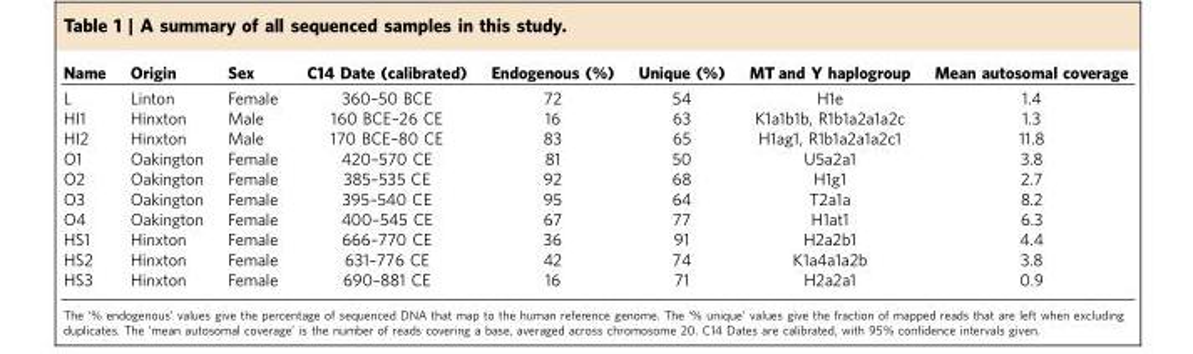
<table><thead><tr><td>Name</td><td>Origin</td><td>Sex</td><td>C14 Date (calibrated)</td><td>Endogenous (%)</td><td>Unique (%)</td><td>MT and Y haplogroup</td><td>Mean autosomal coverage</td></tr></thead><tbody><tr><td>L</td><td>Linton</td><td>Female</td><td>360–50 BCE</td><td>72</td><td>54</td><td>H1e</td><td>1.4</td></tr><tr><td>HI1</td><td>Hinxton</td><td>Male</td><td>160 BCE–26 CE</td><td>16</td><td>63</td><td>K1a1b1b, R1b1a2a1a2c</td><td>1.3</td></tr><tr><td>HI2</td><td>Hinxton</td><td>Male</td><td>170 BCE–80 CE</td><td>83</td><td>65</td><td>H1ag1, R1b1a2a1a2c1</td><td>11.8</td></tr><tr><td>O1</td><td>Oakington</td><td>Female</td><td>420–570 CE</td><td>81</td><td>50</td><td>U5a2a1</td><td>3.8</td></tr><tr><td>O2</td><td>Oakington</td><td>Female</td><td>385–535 CE</td><td>92</td><td>68</td><td>H1g1</td><td>2.7</td></tr><tr><td>O3</td><td>Oakington</td><td>Female</td><td>395–540 CE</td><td>95</td><td>64</td><td>T2a1a</td><td>8.2</td></tr><tr><td>O4</td><td>Oakington</td><td>Female</td><td>400–545 CE</td><td>67</td><td>77</td><td>H1at1</td><td>6.3</td></tr><tr><td>HS1</td><td>Hinxton</td><td>Female</td><td>666–770 CE</td><td>36</td><td>91</td><td>H2a2b1</td><td>4.4</td></tr><tr><td>HS2</td><td>Hinxton</td><td>Female</td><td>631–776 CE</td><td>42</td><td>74</td><td>K1a4a1a2b</td><td>3.8</td></tr><tr><td>HS3</td><td>Hinxton</td><td>Female</td><td>690–881 CE</td><td>16</td><td>71</td><td>H2a2a1</td><td>0.9</td></tr></tbody></table>